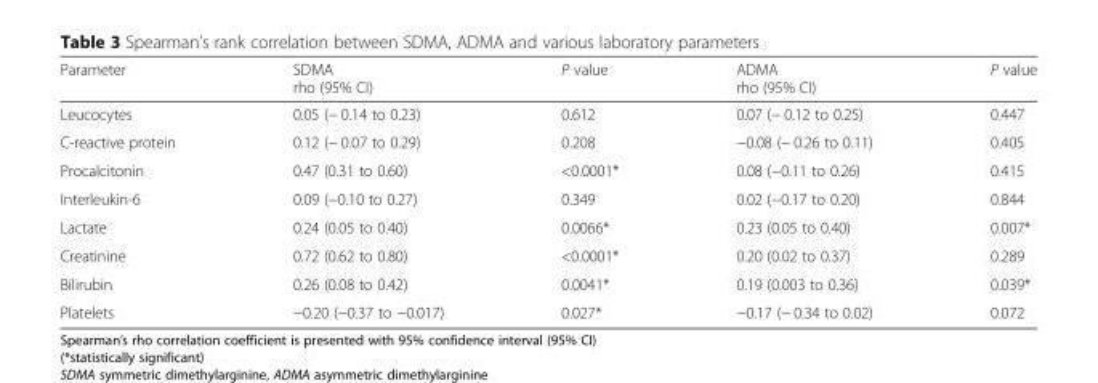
<table><thead><tr><td>Parameter</td><td>SDMA rho (95% CI)</td><td>P value</td><td>ADMA rho (95% CI)</td><td>P value</td></tr></thead><tbody><tr><td>Leucocytes</td><td>0.05 (− 0.14 to 0.23)</td><td>0.612</td><td>0.07 (− 0.12 to 0.25)</td><td>0.447</td></tr><tr><td>C-reactive protein</td><td>0.12 (− 0.07 to 0.29)</td><td>0.208</td><td>−0.08 (− 0.26 to 0.11)</td><td>0.405</td></tr><tr><td>Procalcitonin</td><td>0.47 (0.31 to 0.60)</td><td>&lt;0.0001*</td><td>0.08 (−0.11 to 0.26)</td><td>0.415</td></tr><tr><td>Interleukin-6</td><td>0.09 (−0.10 to 0.27)</td><td>0.349</td><td>0.02 (−0.17 to 0.20)</td><td>0.844</td></tr><tr><td>Lactate</td><td>0.24 (0.05 to 0.40)</td><td>0.0066*</td><td>0.23 (0.05 to 0.40)</td><td>0.007*</td></tr><tr><td>Creatinine</td><td>0.72 (0.62 to 0.80)</td><td>&lt;0.0001*</td><td>0.20 (0.02 to 0.37)</td><td>0.289</td></tr><tr><td>Bilirubin</td><td>0.26 (0.08 to 0.42)</td><td>0.0041*</td><td>0.19 (0.003 to 0.36)</td><td>0.039*</td></tr><tr><td>Platelets</td><td>−0.20 (−0.37 to −0.017)</td><td>0.027*</td><td>−0.17 (− 0.34 to 0.02)</td><td>0.072</td></tr></tbody></table>